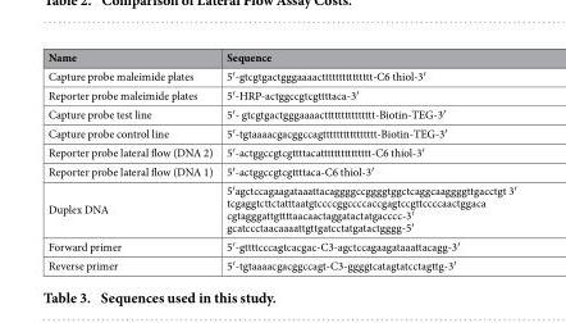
<table><thead><tr><td>Name</td><td>Sequence</td></tr></thead><tbody><tr><td>Capture probe maleimide plates</td><td>5′ -gtcgtgactgggaaaacttttttttttttttt-C6 thiol-3′</td></tr><tr><td>Reporter probe maleimide plates</td><td>5′ -HRP-actggccgtcgttttaca-3′</td></tr><tr><td>Capture probe test line</td><td>5′ - gtcgtgactgggaaaacttttttttttttttt-Biotin-TEG-3′</td></tr><tr><td>Capture probe control line</td><td>5′ -tgtaaaacgacggccagtttttttttttttttt-Biotin-TEG-3′</td></tr><tr><td>Reporter probe lateral flow (DNA 2)</td><td>5′ -actggccgtcgttttacattttttttttttttt-C6 thiol-3′</td></tr><tr><td>Reporter probe lateral flow (DNA 1)</td><td>5′ -actggccgtcgttttaca-C6 thiol-3′</td></tr><tr><td>Duplex DNA</td><td>5′ agctccagaagataaattacaggggccggggtggctcaggcaaggggttgacctgt 3′ tcgaggtcttctatttaatgtccccggccccaccgagtccgttccccaactggaca cgtagggattgttttaacaactaggatactatgacccc-3′ gcatccctaacaaaattgttgatcctatgatactgggg-5′</td></tr><tr><td>Forward primer</td><td>5′ -gttttcccagtcacgac-C3-agctccagaagataaattacagg-3′</td></tr><tr><td>Reverse primer</td><td>5′ -tgtaaaacgacggccagt-C3-ggggtcatagtatcctagttg-3′</td></tr></tbody></table>